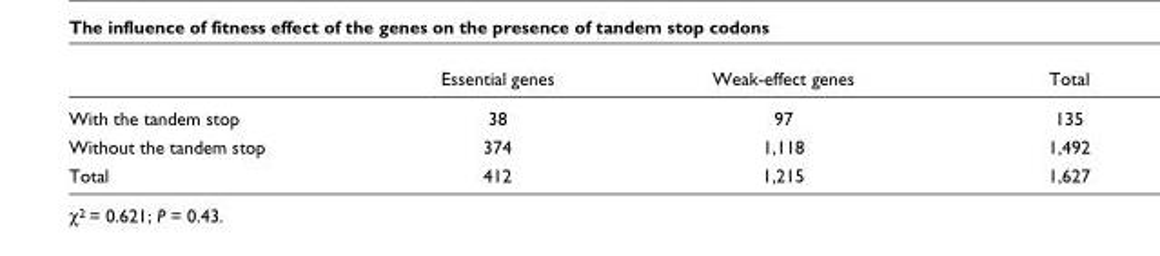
<table><thead><tr><td></td><td>Essential genes</td><td>Weak-effect genes</td><td>Total</td></tr></thead><tbody><tr><td>With the tandem stop</td><td>38</td><td>97</td><td>135</td></tr><tr><td>Without the tandem stop</td><td>374</td><td>1,118</td><td>1,492</td></tr><tr><td>Total</td><td>412</td><td>1,215</td><td>1,627</td></tr></tbody></table>